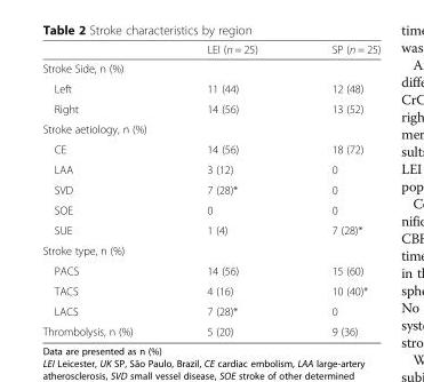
<table><thead><tr><td></td><td>LEI (n = 25)</td><td>SP (n = 25)</td></tr></thead><tbody><tr><td colspan="3">Stroke Side, n (%)</td></tr><tr><td>Left</td><td>11 (44)</td><td>12 (48)</td></tr><tr><td>Right</td><td>14 (56)</td><td>13 (52)</td></tr><tr><td colspan="3">Stroke aetiology, n (%)</td></tr><tr><td>CE</td><td>14 (56)</td><td>18 (72)</td></tr><tr><td>LAA</td><td>3 (12)</td><td>0</td></tr><tr><td>SVD</td><td>7 (28)*</td><td>0</td></tr><tr><td>SOE</td><td>0</td><td>0</td></tr><tr><td>SUE</td><td>1 (4)</td><td>7 (28)*</td></tr><tr><td colspan="3">Stroke type, n (%)</td></tr><tr><td>PACS</td><td>14 (56)</td><td>15 (60)</td></tr><tr><td>TACS</td><td>4 (16)</td><td>10 (40)*</td></tr><tr><td>LACS</td><td>7 (28)*</td><td>0</td></tr><tr><td>Thrombolysis, n (%)</td><td>5 (20)</td><td>9 (36)</td></tr></tbody></table>